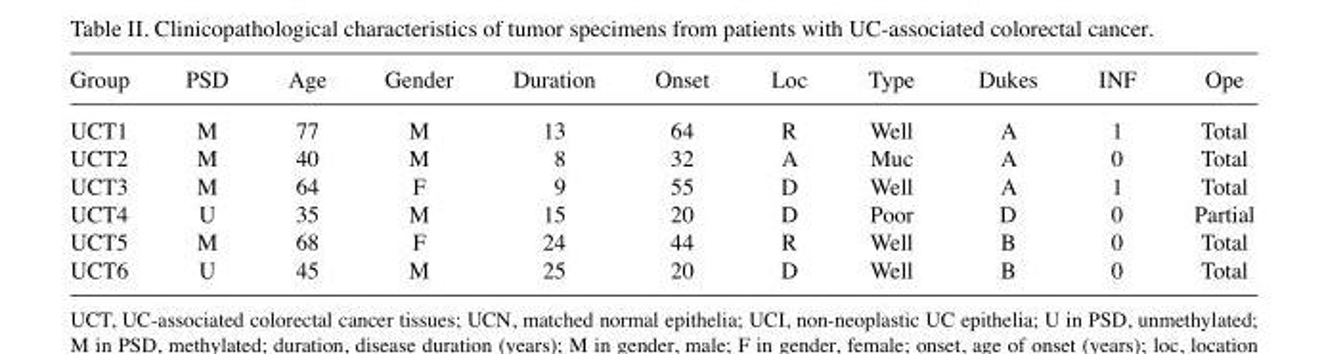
<table><thead><tr><td>Group</td><td>PSD</td><td>Age</td><td>Gender</td><td>Duration</td><td>Onset</td><td>Loc</td><td>Type</td><td>Dukes</td><td>INF</td><td>Ope</td></tr></thead><tbody><tr><td>UCT1</td><td>M</td><td>77</td><td>M</td><td>13</td><td>64</td><td>R</td><td>Well</td><td>A</td><td>1</td><td>Total</td></tr><tr><td>UCT2</td><td>M</td><td>40</td><td>M</td><td>8</td><td>32</td><td>A</td><td>Muc</td><td>A</td><td>0</td><td>Total</td></tr><tr><td>UCT3</td><td>M</td><td>64</td><td>F</td><td>9</td><td>55</td><td>D</td><td>Well</td><td>A</td><td>1</td><td>Total</td></tr><tr><td>UCT4</td><td>U</td><td>35</td><td>M</td><td>15</td><td>20</td><td>D</td><td>Poor</td><td>D</td><td>0</td><td>Partial</td></tr><tr><td>UCT5</td><td>M</td><td>68</td><td>F</td><td>24</td><td>44</td><td>R</td><td>Well</td><td>B</td><td>0</td><td>Total</td></tr><tr><td>UCT6</td><td>U</td><td>45</td><td>M</td><td>25</td><td>20</td><td>D</td><td>Well</td><td>B</td><td>0</td><td>Total</td></tr></tbody></table>